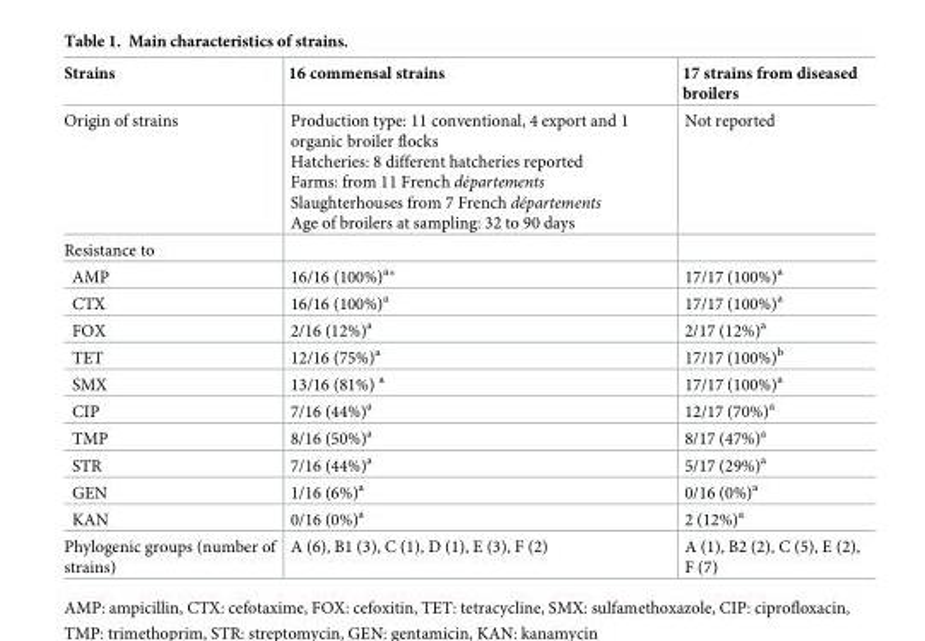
<table><thead><tr><td>Strains</td><td>16 commensal strains</td><td>17 strains from diseased broilers</td></tr></thead><tbody><tr><td>Origin of strains</td><td>Production type: 11 conventional, 4 export and 1 organic broiler flocks Hatcheries: 8 different hatcheries reported Farms: from 11 French départements Slaughterhouses from 7 French départements Age of broilers at sampling: 32 to 90 days</td><td>Not reported</td></tr><tr><td colspan="3">Resistance to</td></tr><tr><td>AMP</td><td>16/16 (100%)<sup>a</sup>*</td><td>17/17 (100%)<sup>a</sup></td></tr><tr><td>CTX</td><td>16/16 (100%)<sup>a</sup></td><td>17/17 (100%)<sup>a</sup></td></tr><tr><td>FOX</td><td>2/16 (12%)<sup>a</sup></td><td>2/17 (12%)<sup>a</sup></td></tr><tr><td>TET</td><td>12/16 (75%)<sup>a</sup></td><td>17/17 (100%)<sup>b</sup></td></tr><tr><td>SMX</td><td>13/16 (81%) <sup>a</sup></td><td>17/17 (100%)<sup>a</sup></td></tr><tr><td>CIP</td><td>7/16 (44%)<sup>a</sup></td><td>12/17 (70%)<sup>a</sup></td></tr><tr><td>TMP</td><td>8/16 (50%)<sup>a</sup></td><td>8/17 (47%)<sup>a</sup></td></tr><tr><td>STR</td><td>7/16 (44%)<sup>a</sup></td><td>5/17 (29%)<sup>a</sup></td></tr><tr><td>GEN</td><td>1/16 (6%)<sup>a</sup></td><td>0/16 (0%)<sup>a</sup></td></tr><tr><td>KAN</td><td>0/16 (0%)<sup>a</sup></td><td>2 (12%)<sup>a</sup></td></tr><tr><td>Phylogenic groups (number of strains)</td><td>A (6), B1 (3), C (1), D (1), E (3), F (2)</td><td>A (1), B2 (2), C (5), E (2), F (7)</td></tr></tbody></table>